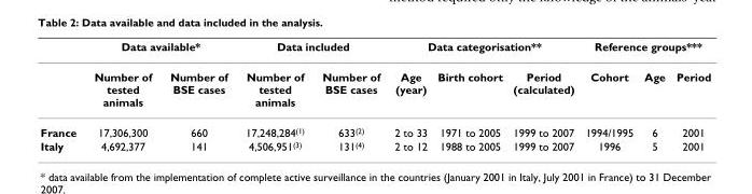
<table><thead><tr><td rowspan="2"></td><td colspan="2">Data available*</td><td colspan="2">Data included</td><td colspan="3">Data categorisation**</td><td colspan="3">Reference groups***</td></tr><tr><td>Number of tested animals</td><td>Number of BSE cases</td><td>Number of tested animals</td><td>Number of BSE cases</td><td>Age (year)</td><td>Birth cohort</td><td>Period (calculated)</td><td>Cohort</td><td>Age</td><td>Period</td></tr></thead><tbody><tr><td>France</td><td>17,306,300</td><td>660</td><td>17,248,284<sup>(1)</sup></td><td>633<sup>(2)</sup></td><td>2 to 33</td><td>1971 to 2005</td><td>1999 to 2007</td><td>1994/1995</td><td>6</td><td>2001</td></tr><tr><td>Italy</td><td>4,692,377</td><td>141</td><td>4,506,951<sup>(3)</sup></td><td>131<sup>(4)</sup></td><td>2 to 12</td><td>1988 to 2005</td><td>1999 to 2007</td><td>1996</td><td>5</td><td>2001</td></tr></tbody></table>